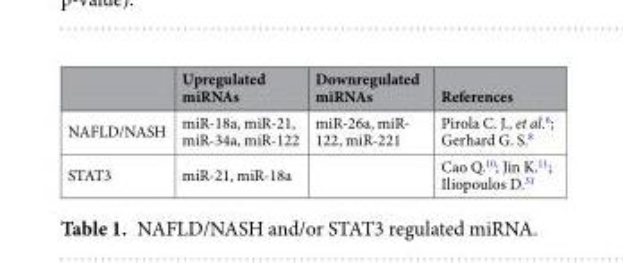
<table><thead><tr><td></td><td>Upregulated miRNAs</td><td>Downregulated miRNAs</td><td>References</td></tr></thead><tbody><tr><td>NAFLD/NASH</td><td>miR-18a, miR-21, miR-34a, miR-122</td><td>miR-26a, miR- 122, miR-221</td><td>Pirola C. J., et al.<sup>6</sup>; Gerhard G. S.<sup>8</sup></td></tr><tr><td>STAT3</td><td>miR-21, miR-18a</td><td></td><td>Cao Q.<sup>10</sup>; Jin K.<sup>11</sup>; Iliopoulos D.<sup>31</sup></td></tr></tbody></table>